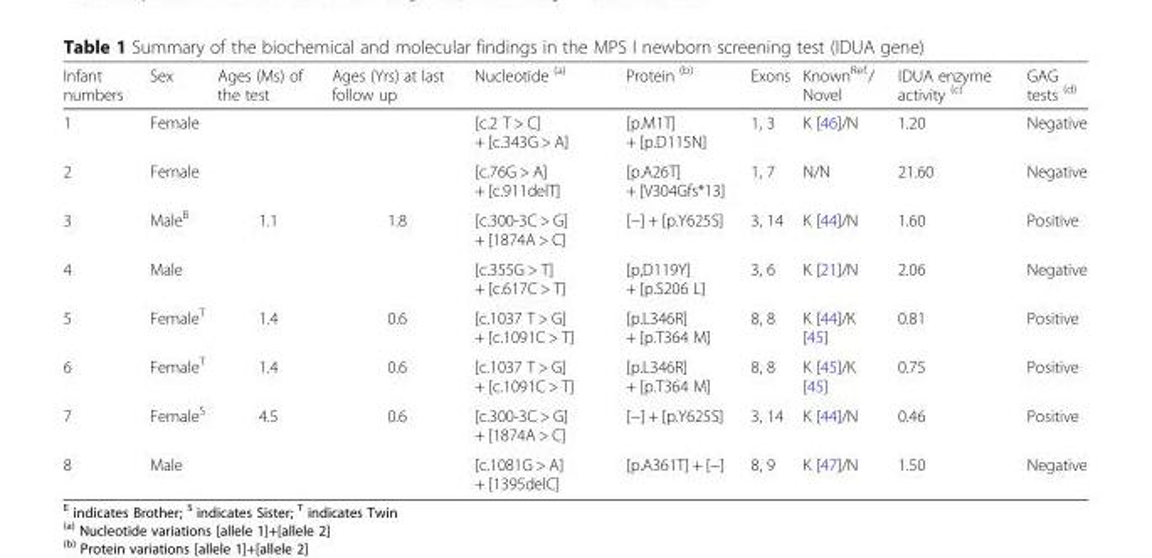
<table><thead><tr><td>Infant numbers</td><td>Sex</td><td>Ages (Ms) of the test</td><td>Ages (Yrs) at last follow up</td><td>Nucleotide <sup>(a)</sup></td><td>Protein <sup>(b)</sup></td><td>Exons</td><td>Known<sup>Ref.</sup>/ Novel</td><td>IDUA enzyme activity <sup>(c)</sup></td><td>GAG tests <sup>(d)</sup></td></tr></thead><tbody><tr><td>1</td><td>Female</td><td></td><td></td><td>[c.2 T &gt; C] + [c.343G &gt; A]</td><td>[p.M1T] + [p.D115N]</td><td>1, 3</td><td>K [46]/N</td><td>1.20</td><td>Negative</td></tr><tr><td>2</td><td>Female</td><td></td><td></td><td>[c.76G &gt; A] + [c.911delT]</td><td>[p.A26T] + [V304Gfs*13]</td><td>1, 7</td><td>N/N</td><td>21.60</td><td>Negative</td></tr><tr><td>3</td><td>Male<sup>B</sup></td><td>1.1</td><td>1.8</td><td>[c.300-3C &gt; G] + [1874A &gt; C]</td><td>[−] + [p.Y625S]</td><td>3, 14</td><td>K [44]/N</td><td>1.60</td><td>Positive</td></tr><tr><td>4</td><td>Male</td><td></td><td></td><td>[c.355G &gt; T] + [c.617C &gt; T]</td><td>[p,D119Y] + [p.S206 L]</td><td>3, 6</td><td>K [21]/N</td><td>2.06</td><td>Negative</td></tr><tr><td>5</td><td>Female<sup>T</sup></td><td>1.4</td><td>0.6</td><td>[c.1037 T &gt; G] + [c.1091C &gt; T]</td><td>[p.L346R] + [p.T364 M]</td><td>8, 8</td><td>K [44]/K [45]</td><td>0.81</td><td>Positive</td></tr><tr><td>6</td><td>Female<sup>T</sup></td><td>1.4</td><td>0.6</td><td>[c.1037 T &gt; G] + [c.1091C &gt; T]</td><td>[p.L346R] + [p.T364 M]</td><td>8, 8</td><td>K [45]/K [45]</td><td>0.75</td><td>Positive</td></tr><tr><td>7</td><td>Female<sup>S</sup></td><td>4.5</td><td>0.6</td><td>[c.300-3C &gt; G] + [1874A &gt; C]</td><td>[−] + [p.Y625S]</td><td>3, 14</td><td>K [44]/N</td><td>0.46</td><td>Positive</td></tr><tr><td>8</td><td>Male</td><td></td><td></td><td>[c.1081G &gt; A] + [1395delC]</td><td>[p.A361T] + [−]</td><td>8, 9</td><td>K [47]/N</td><td>1.50</td><td>Negative</td></tr></tbody></table>